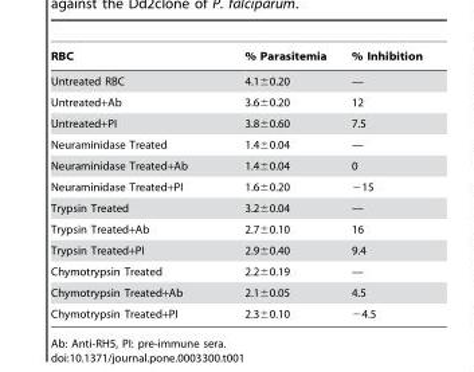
<table><thead><tr><td>RBC</td><td>% Parasitemia</td><td>% Inhibition</td></tr></thead><tbody><tr><td>Untreated RBC</td><td>4.1±0.20</td><td>—</td></tr><tr><td>Untreated+Ab</td><td>3.6±0.20</td><td>12</td></tr><tr><td>Untreated+PI</td><td>3.8±0.60</td><td>7.5</td></tr><tr><td>Neuraminidase Treated</td><td>1.4±0.04</td><td>—</td></tr><tr><td>Neuraminidase Treated+Ab</td><td>1.4±0.04</td><td>0</td></tr><tr><td>Neuraminidase Treated+PI</td><td>1.6±0.20</td><td>−15</td></tr><tr><td>Trypsin Treated</td><td>3.2±0.04</td><td>—</td></tr><tr><td>Trypsin Treated+Ab</td><td>2.7±0.10</td><td>16</td></tr><tr><td>Trypsin Treated+PI</td><td>2.9±0.40</td><td>9.4</td></tr><tr><td>Chymotrypsin Treated</td><td>2.2±0.19</td><td>—</td></tr><tr><td>Chymotrypsin Treated+Ab</td><td>2.1±0.05</td><td>4.5</td></tr><tr><td>Chymotrypsin Treated+PI</td><td>2.3±0.10</td><td>−4.5</td></tr></tbody></table>